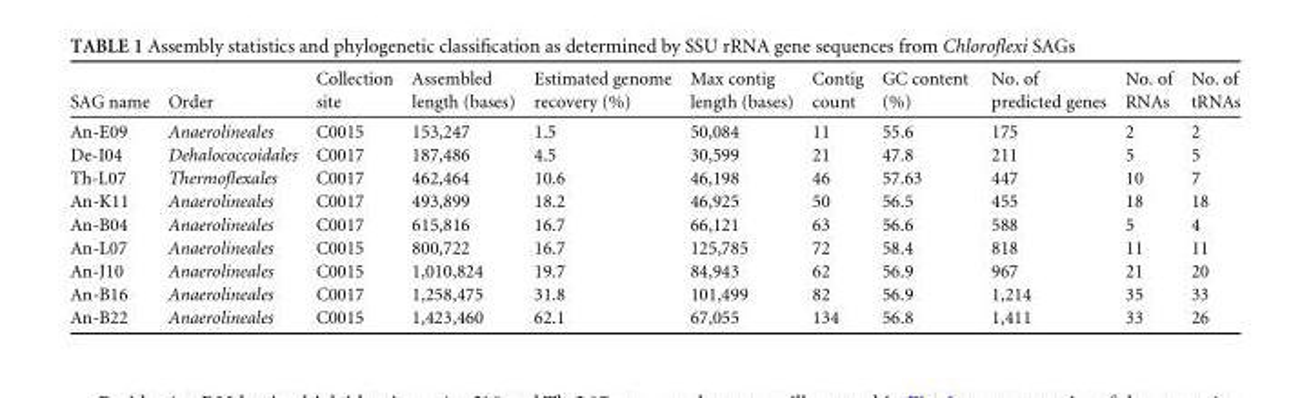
<table><thead><tr><td>SAG name</td><td>Order</td><td>Collection site</td><td>Assembled length (bases)</td><td>Estimated genome recovery (%)</td><td>Max contig length (bases)</td><td>Contig count</td><td>GC content (%)</td><td>No. of predicted genes</td><td>No. of RNAs</td><td>No. of tRNAs</td></tr></thead><tbody><tr><td>An-E09</td><td>Anaerolineales</td><td>C0015</td><td>153,247</td><td>1.5</td><td>50,084</td><td>11</td><td>55.6</td><td>175</td><td>2</td><td>2</td></tr><tr><td>De-I04</td><td>Dehalococcoidales</td><td>C0017</td><td>187,486</td><td>4.5</td><td>30,599</td><td>21</td><td>47.8</td><td>211</td><td>5</td><td>5</td></tr><tr><td>Th-L07</td><td>Thermoflexales</td><td>C0017</td><td>462,464</td><td>10.6</td><td>46,198</td><td>46</td><td>57.63</td><td>447</td><td>10</td><td>7</td></tr><tr><td>An-K11</td><td>Anaerolineales</td><td>C0017</td><td>493,899</td><td>18.2</td><td>46,925</td><td>50</td><td>56.5</td><td>455</td><td>18</td><td>18</td></tr><tr><td>An-B04</td><td>Anaerolineales</td><td>C0017</td><td>615,816</td><td>16.7</td><td>66,121</td><td>63</td><td>56.6</td><td>588</td><td>5</td><td>4</td></tr><tr><td>An-L07</td><td>Anaerolineales</td><td>C0015</td><td>800,722</td><td>16.7</td><td>125,785</td><td>72</td><td>58.4</td><td>818</td><td>11</td><td>11</td></tr><tr><td>An-J10</td><td>Anaerolineales</td><td>C0015</td><td>1,010,824</td><td>19.7</td><td>84,943</td><td>62</td><td>56.9</td><td>967</td><td>21</td><td>20</td></tr><tr><td>An-B16</td><td>Anaerolineales</td><td>C0017</td><td>1,258,475</td><td>31.8</td><td>101,499</td><td>82</td><td>56.9</td><td>1,214</td><td>35</td><td>33</td></tr><tr><td>An-B22</td><td>Anaerolineales</td><td>C0015</td><td>1,423,460</td><td>62.1</td><td>67,055</td><td>134</td><td>56.8</td><td>1,411</td><td>33</td><td>26</td></tr></tbody></table>